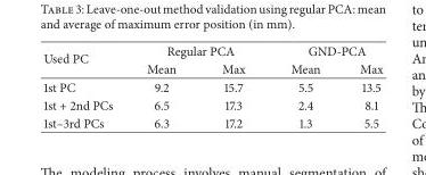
<table><thead><tr><td rowspan="2">Used PC</td><td colspan="2">Regular PCA</td><td colspan="2">GND-PCA</td></tr><tr><td>Mean</td><td>Max</td><td>Mean</td><td>Max</td></tr></thead><tbody><tr><td>1st PC</td><td>9.2</td><td>15.7</td><td>5.5</td><td>13.5</td></tr><tr><td>1st + 2nd PCs</td><td>6.5</td><td>17.3</td><td>2.4</td><td>8.1</td></tr><tr><td>1st–3rd PCs</td><td>6.3</td><td>17.2</td><td>1.3</td><td>5.5</td></tr></tbody></table>